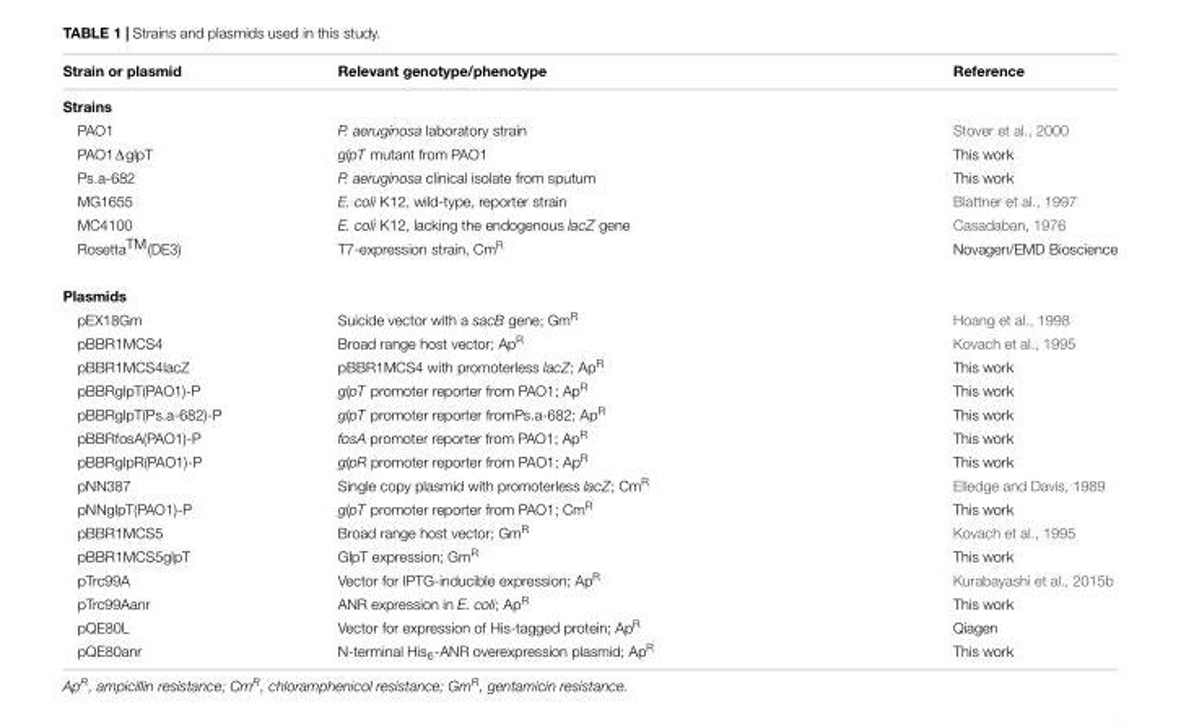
<table><thead><tr><td>Strain or plasmid</td><td>Relevant genotype/phenotype</td><td>Reference</td></tr></thead><tbody><tr><td colspan="3">Strains</td></tr><tr><td>PAO1</td><td>P. aeruginosa laboratory strain</td><td>Stover et al., 2000</td></tr><tr><td>PAO1ΔglpT</td><td>glpT mutant from PAO1</td><td>This work</td></tr><tr><td>Ps.a-682</td><td>P. aeruginosa clinical isolate from sputum</td><td>This work</td></tr><tr><td>MG1655</td><td>E. coli K12, wild-type, reporter strain</td><td>Blattner et al., 1997</td></tr><tr><td>MC4100</td><td>E. coli K12, lacking the endogenous lacZ gene</td><td>Casadaban, 1976</td></tr><tr><td>Rosetta<sup>TM</sup>(DE3)</td><td>T7-expression strain, Cm<sup>R</sup></td><td>Novagen/EMD Bioscience</td></tr><tr><td colspan="3">Plasmids</td></tr><tr><td>pEX18Gm</td><td>Suicide vector with a sacB gene; Gm<sup>R</sup></td><td>Hoang et al., 1998</td></tr><tr><td>pBBR1MCS4</td><td>Broad range host vector; Ap<sup>R</sup></td><td>Kovach et al., 1995</td></tr><tr><td>pBBR1MCS4lacZ</td><td>pBBR1MCS4 with promoterless lacZ; Ap<sup>R</sup></td><td>This work</td></tr><tr><td>pBBRglpT(PAO1)-P</td><td>glpT promoter reporter from PAO1; Ap<sup>R</sup></td><td>This work</td></tr><tr><td>pBBRglpT(Ps.a-682)-P</td><td>glpT promoter reporter fromPs.a-682; Ap<sup>R</sup></td><td>This work</td></tr><tr><td>pBBRfosA(PAO1)-P</td><td>fosA promoter reporter from PAO1; Ap<sup>R</sup></td><td>This work</td></tr><tr><td>pBBRglpR(PAO1)-P</td><td>glpR promoter reporter from PAO1; Ap<sup>R</sup></td><td>This work</td></tr><tr><td>pNN387</td><td>Single copy plasmid with promoterless lacZ; Cm<sup>R</sup></td><td>Elledge and Davis, 1989</td></tr><tr><td>pNNglpT(PAO1)-P</td><td>glpT promoter reporter from PAO1; Cm<sup>R</sup></td><td>This work</td></tr><tr><td>pBBR1MCS5</td><td>Broad range host vector; Gm<sup>R</sup></td><td>Kovach et al., 1995</td></tr><tr><td>pBBR1MCS5glpT</td><td>GlpT expression; Gm<sup>R</sup></td><td>This work</td></tr><tr><td>pTrc99A</td><td>Vector for IPTG-inducible expression; Ap<sup>R</sup></td><td>Kurabayashi et al., 2015b</td></tr><tr><td>pTrc99Aanr</td><td>ANR expression in E. coli; Ap<sup>R</sup></td><td>This work</td></tr><tr><td>pQE80L</td><td>Vector for expression of His-tagged protein; Ap<sup>R</sup></td><td>Qiagen</td></tr><tr><td>pQE80anr</td><td>N-terminal His<sub>6</sub>-ANR overexpression plasmid; Ap<sup>R</sup></td><td>This work</td></tr></tbody></table>